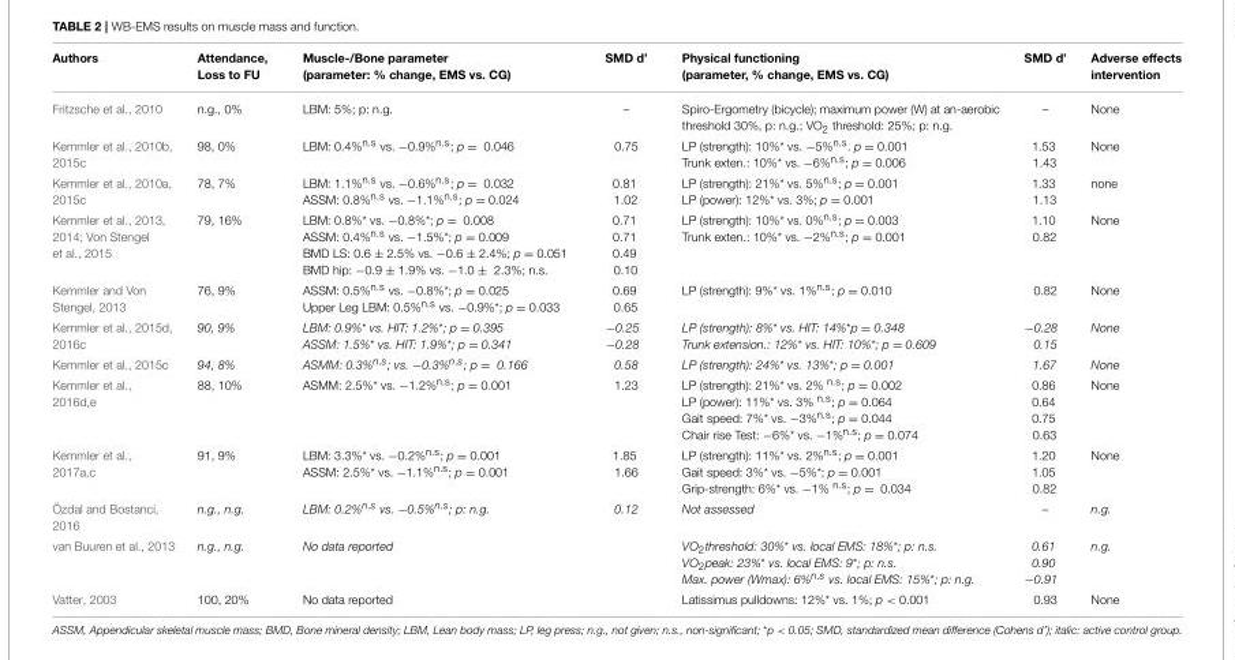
<table><thead><tr><td>Authors</td><td>Attendance, Loss to FU</td><td>Muscle-/Bone parameter (parameter: % change, EMS vs. CG)</td><td>SMD d’</td><td>Physical functioning (parameter, % change, EMS vs. CG)</td><td>SMD d’</td><td>Adverse effects intervention</td></tr></thead><tbody><tr><td>Fritzsche et al., 2010</td><td>n.g., 0%</td><td>LBM: 5%; p: n.g.</td><td>–</td><td>Spiro-Ergometry (bicycle); maximum power (W) at an-aerobic threshold 30%, p: n.g.; VO<sub>2</sub> threshold: 25%; p: n.g.</td><td>–</td><td>None</td></tr><tr><td>Kemmler et al., 2010b, 2015c</td><td>98, 0%</td><td>LBM: 0.4%<sup>n.s</sup> vs. −0.9%<sup>n.s</sup>; p = 0.046</td><td>0.75</td><td>LP (strength): 10%* vs. −5%<sup>n.s</sup>. p = 0.001 Trunk exten.: 10%* vs. −6%<sup>n.s</sup>; p = 0.006</td><td>1.53 1.43</td><td>None</td></tr><tr><td>Kemmler et al., 2010a, 2015c</td><td>78, 7%</td><td>LBM: 1.1%<sup>n.s</sup> vs. −0.6%<sup>n.s</sup>; p = 0.032 ASSM: 0.8%<sup>n.s</sup> vs. −1.1%<sup>n.s</sup>; p = 0.024</td><td>0.81 1.02</td><td>LP (strength): 21%* vs. 5%<sup>n.s</sup>; p = 0.001 LP (power): 12%* vs. 3%; p = 0.001</td><td>1.33 1.13</td><td>none</td></tr><tr><td>Kemmler et al., 2013, 2014; Von Stengel et al., 2015</td><td>79, 16%</td><td>LBM: 0.8%* vs. −0.8%*; p = 0.008 ASSM: 0.4%<sup>n.s</sup> vs. −1.5%*; p = 0.009 BMD LS: 0.6 ± 2.5% vs. −0.6 ± 2.4%; p = 0.051 BMD hip: −0.9 ± 1.9% vs. −1.0 ± 2.3%; n.s.</td><td>0.71 0.71 0.49 0.10</td><td>LP (strength): 10%* vs. 0%<sup>n.s</sup>; p = 0.003 Trunk exten.: 10%* vs. −2%<sup>n.s</sup>; p = 0.001</td><td>1.10 0.82</td><td>None</td></tr><tr><td>Kemmler and Von Stengel, 2013</td><td>76, 9%</td><td>ASSM: 0.5%<sup>n.s</sup> vs. −0.8%*; p = 0.025 Upper Leg LBM: 0.5%<sup>n.s</sup> vs. −0.9%*; p = 0.033</td><td>0.69 0.65</td><td>LP (strength): 9%* vs. 1%<sup>n.s</sup>; p = 0.010</td><td>0.82</td><td>None</td></tr><tr><td>Kemmler et al., 2015d, 2016c</td><td>90, 9%</td><td>LBM: 0.9%* vs. HIT: 1.2%*; p = 0.395 ASSM: 1.5%* vs. HIT: 1.9%*; p = 0.341</td><td>−0.25 −0.28</td><td>LP (strength): 8%* vs. HIT: 14%*p = 0.348 Trunk extension.: 12%* vs. HIT: 10%*; p = 0.609</td><td>−0.28 0.15</td><td>None</td></tr><tr><td>Kemmler et al., 2015c</td><td>94, 8%</td><td>ASMM: 0.3%n.s; vs. −0.3%n.s; p = 0.166</td><td>0.58</td><td>LP (strength): 24%* vs. 13%*; p = 0.001</td><td>1.67</td><td>None</td></tr><tr><td>Kemmler et al., 2016d,e</td><td>88, 10%</td><td>ASMM: 2.5%* vs. −1.2%<sup>n.s</sup>; p = 0.001</td><td>1.23</td><td>LP (strength): 21%* vs. 2% <sup>n.s</sup>; p = 0.002 LP (power): 11%* vs. 3% <sup>n.s</sup>; p = 0.064 Gait speed: 7%* vs. −3%<sup>n.s</sup>; p = 0.044 Chair rise Test: −6%* vs. −1%<sup>n.s</sup>; p = 0.074</td><td>0.86 0.64 0.75 0.63</td><td>None</td></tr><tr><td>Kemmler et al., 2017a,c</td><td>91, 9%</td><td>LBM: 3.3%* vs. −0.2%<sup>n.s</sup>; p = 0.001 ASSM: 2.5%* vs. −1.1%<sup>n.s</sup>; p = 0.001</td><td>1.85 1.66</td><td>LP (strength): 11%* vs. 2%<sup>n.s</sup>; p = 0.001 Gait speed: 3%* vs. −5%*; p = 0.001 Grip-strength: 6%* vs. −1% <sup>n.s</sup>; p = 0.034</td><td>1.20 1.05 0.82</td><td>None</td></tr><tr><td>Özdal and Bostanci, 2016</td><td>n.g., n.g.</td><td>LBM: 0.2%n.s vs. −0.5%n.s; p: n.g.</td><td>0.12</td><td>Not assessed</td><td>–</td><td>n.g.</td></tr><tr><td>van Buuren et al., 2013</td><td>n.g., n.g.</td><td>No data reported</td><td></td><td>VO2threshold: 30%* vs. local EMS: 18%*; p: n.s. VO2peak: 23%* vs. local EMS: 9*; p: n.s. Max. power (Wmax): 6%n.s vs. local EMS: 15%*; p: n.g.</td><td>0.61 0.90 −0.91</td><td>n.g.</td></tr><tr><td>Vatter, 2003</td><td>100, 20%</td><td>No data reported</td><td></td><td>Latissimus pulldowns: 12%* vs. 1%; p &lt; 0.001</td><td>0.93</td><td>None</td></tr></tbody></table>